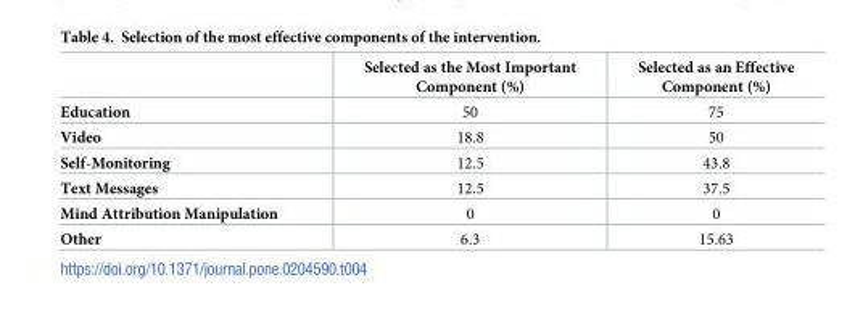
<table><thead><tr><td></td><td>Selected as the Most Important Component (%)</td><td>Selected as an Effective Component (%)</td></tr></thead><tbody><tr><td>Education</td><td>50</td><td>75</td></tr><tr><td>Video</td><td>18.8</td><td>50</td></tr><tr><td>Self-Monitoring</td><td>12.5</td><td>43.8</td></tr><tr><td>Text Messages</td><td>12.5</td><td>37.5</td></tr><tr><td>Mind Attribution Manipulation</td><td>0</td><td>0</td></tr><tr><td>Other</td><td>6.3</td><td>15.63</td></tr></tbody></table>